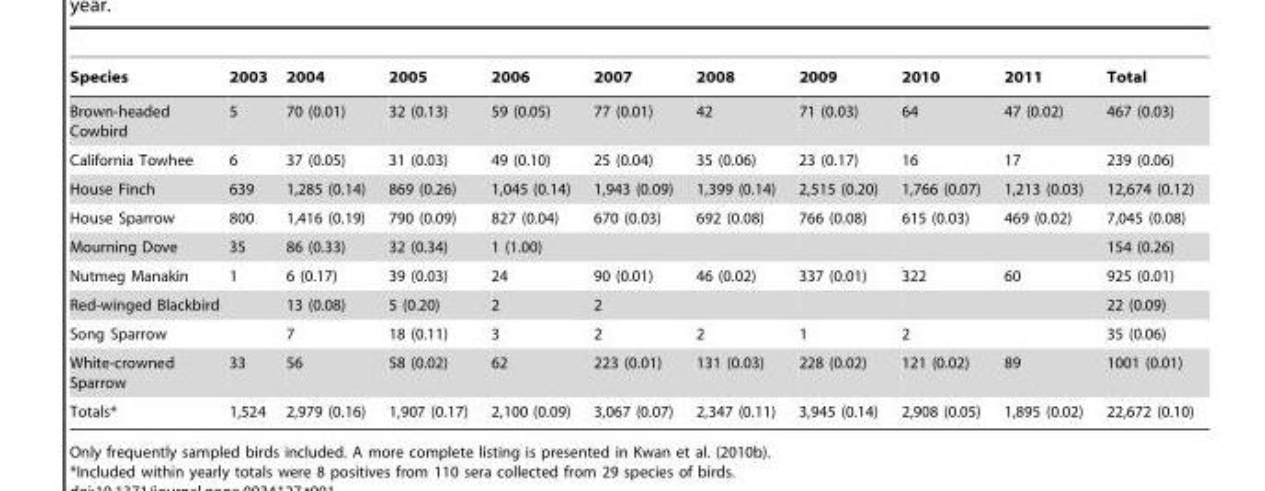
<table><thead><tr><td>Species</td><td>2003</td><td>2004</td><td>2005</td><td>2006</td><td>2007</td><td>2008</td><td>2009</td><td>2010</td><td>2011</td><td>Total</td></tr></thead><tbody><tr><td>Brown-headed Cowbird</td><td>5</td><td>70 (0.01)</td><td>32 (0.13)</td><td>59 (0.05)</td><td>77 (0.01)</td><td>42</td><td>71 (0.03)</td><td>64</td><td>47 (0.02)</td><td>467 (0.03)</td></tr><tr><td>California Towhee</td><td>6</td><td>37 (0.05)</td><td>31 (0.03)</td><td>49 (0.10)</td><td>25 (0.04)</td><td>35 (0.06)</td><td>23 (0.17)</td><td>16</td><td>17</td><td>239 (0.06)</td></tr><tr><td>House Finch</td><td>639</td><td>1,285 (0.14)</td><td>869 (0.26)</td><td>1,045 (0.14)</td><td>1,943 (0.09)</td><td>1,399 (0.14)</td><td>2,515 (0.20)</td><td>1,766 (0.07)</td><td>1,213 (0.03)</td><td>12,674 (0.12)</td></tr><tr><td>House Sparrow</td><td>800</td><td>1,416 (0.19)</td><td>790 (0.09)</td><td>827 (0.04)</td><td>670 (0.03)</td><td>692 (0.08)</td><td>766 (0.08)</td><td>615 (0.03)</td><td>469 (0.02)</td><td>7,045 (0.08)</td></tr><tr><td>Mourning Dove</td><td>35</td><td>86 (0.33)</td><td>32 (0.34)</td><td>1 (1.00)</td><td></td><td></td><td></td><td></td><td></td><td>154 (0.26)</td></tr><tr><td>Nutmeg Manakin</td><td>1</td><td>6 (0.17)</td><td>39 (0.03)</td><td>24</td><td>90 (0.01)</td><td>46 (0.02)</td><td>337 (0.01)</td><td>322</td><td>60</td><td>925 (0.01)</td></tr><tr><td>Red-winged Blackbird</td><td></td><td>13 (0.08)</td><td>5 (0.20)</td><td>2</td><td>2</td><td></td><td></td><td></td><td></td><td>22 (0.09)</td></tr><tr><td>Song Sparrow</td><td></td><td>7</td><td>18 (0.11)</td><td>3</td><td>2</td><td>2</td><td>1</td><td>2</td><td></td><td>35 (0.06)</td></tr><tr><td>White-crowned Sparrow</td><td>33</td><td>56</td><td>58 (0.02)</td><td>62</td><td>223 (0.01)</td><td>131 (0.03)</td><td>228 (0.02)</td><td>121 (0.02)</td><td>89</td><td>1001 (0.01)</td></tr><tr><td>Totals*</td><td>1,524</td><td>2,979 (0.16)</td><td>1,907 (0.17)</td><td>2,100 (0.09)</td><td>3,067 (0.07)</td><td>2,347 (0.11)</td><td>3,945 (0.14)</td><td>2,908 (0.05)</td><td>1,895 (0.02)</td><td>22,672 (0.10)</td></tr></tbody></table>